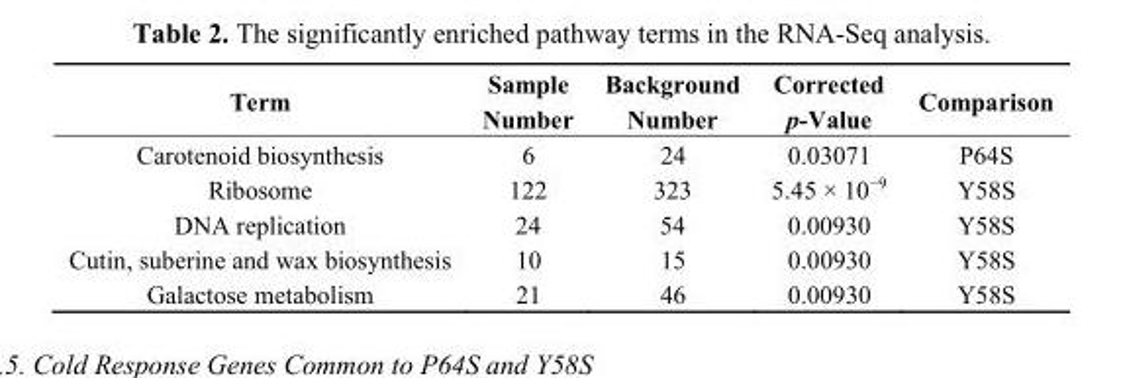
<table><thead><tr><td>Term</td><td>Sample Number</td><td>Background Number</td><td>Corrected p-Value</td><td>Comparison</td></tr></thead><tbody><tr><td>Carotenoid biosynthesis</td><td>6</td><td>24</td><td>0.03071</td><td>P64S</td></tr><tr><td>Ribosome</td><td>122</td><td>323</td><td>5.45 × 10−9</td><td>Y58S</td></tr><tr><td>DNA replication</td><td>24</td><td>54</td><td>0.00930</td><td>Y58S</td></tr><tr><td>Cutin, suberine and wax biosynthesis</td><td>10</td><td>15</td><td>0.00930</td><td>Y58S</td></tr><tr><td>Galactose metabolism</td><td>21</td><td>46</td><td>0.00930</td><td>Y58S</td></tr></tbody></table>